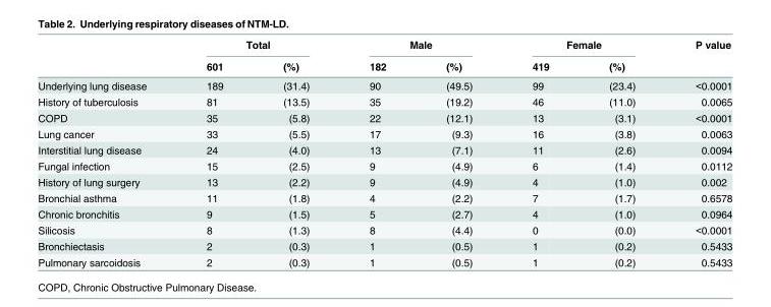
<table><thead><tr><td rowspan="2"></td><td colspan="2">Total</td><td colspan="2">Male</td><td colspan="2">Female</td><td rowspan="2">P value</td></tr><tr><td>601</td><td>(%)</td><td>182</td><td>(%)</td><td>419</td><td>(%)</td></tr></thead><tbody><tr><td>Underlying lung disease</td><td>189</td><td>(31.4)</td><td>90</td><td>(49.5)</td><td>99</td><td>(23.4)</td><td>&lt;0.0001</td></tr><tr><td>History of tuberculosis</td><td>81</td><td>(13.5)</td><td>35</td><td>(19.2)</td><td>46</td><td>(11.0)</td><td>0.0065</td></tr><tr><td>COPD</td><td>35</td><td>(5.8)</td><td>22</td><td>(12.1)</td><td>13</td><td>(3.1)</td><td>&lt;0.0001</td></tr><tr><td>Lung cancer</td><td>33</td><td>(5.5)</td><td>17</td><td>(9.3)</td><td>16</td><td>(3.8)</td><td>0.0063</td></tr><tr><td>Interstitial lung disease</td><td>24</td><td>(4.0)</td><td>13</td><td>(7.1)</td><td>11</td><td>(2.6)</td><td>0.0094</td></tr><tr><td>Fungal infection</td><td>15</td><td>(2.5)</td><td>9</td><td>(4.9)</td><td>6</td><td>(1.4)</td><td>0.0112</td></tr><tr><td>History of lung surgery</td><td>13</td><td>(2.2)</td><td>9</td><td>(4.9)</td><td>4</td><td>(1.0)</td><td>0.002</td></tr><tr><td>Bronchial asthma</td><td>11</td><td>(1.8)</td><td>4</td><td>(2.2)</td><td>7</td><td>(1.7)</td><td>0.6578</td></tr><tr><td>Chronic bronchitis</td><td>9</td><td>(1.5)</td><td>5</td><td>(2.7)</td><td>4</td><td>(1.0)</td><td>0.0964</td></tr><tr><td>Silicosis</td><td>8</td><td>(1.3)</td><td>8</td><td>(4.4)</td><td>0</td><td>(0.0)</td><td>&lt;0.0001</td></tr><tr><td>Bronchiectasis</td><td>2</td><td>(0.3)</td><td>1</td><td>(0.5)</td><td>1</td><td>(0.2)</td><td>0.5433</td></tr><tr><td>Pulmonary sarcoidosis</td><td>2</td><td>(0.3)</td><td>1</td><td>(0.5)</td><td>1</td><td>(0.2)</td><td>0.5433</td></tr></tbody></table>